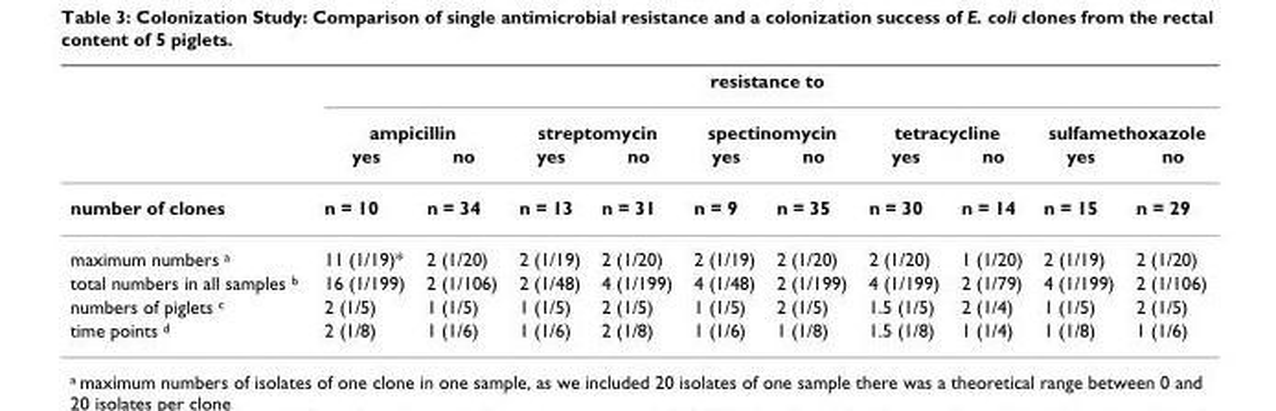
<table><thead><tr><td rowspan="3"></td><td colspan="10">resistance to</td></tr><tr><td colspan="2">ampicillin</td><td colspan="2">streptomycin</td><td colspan="2">spectinomycin</td><td colspan="2">tetracycline</td><td colspan="2">sulfamethoxazole</td></tr><tr><td>yes</td><td>no</td><td>yes</td><td>no</td><td>yes</td><td>no</td><td>yes</td><td>no</td><td>yes</td><td>no</td></tr></thead><tbody><tr><td>number of clones</td><td>n = 10</td><td>n = 34</td><td>n = 13</td><td>n = 31</td><td>n = 9</td><td>n = 35</td><td>n = 30</td><td>n = 14</td><td>n = 15</td><td>n = 29</td></tr><tr><td>maximum numbers <sup>a</sup></td><td>11 (1/19)*</td><td>2 (1/20)</td><td>2 (1/19)</td><td>2 (1/20)</td><td>2 (1/19)</td><td>2 (1/20)</td><td>2 (1/20)</td><td>1 (1/20)</td><td>2 (1/19)</td><td>2 (1/20)</td></tr><tr><td>total numbers in all samples <sup>b</sup></td><td>16 (1/199)</td><td>2 (1/106)</td><td>2 (1/48)</td><td>4 (1/199)</td><td>4 (1/48)</td><td>2 (1/199)</td><td>4 (1/199)</td><td>2 (1/79)</td><td>4 (1/199)</td><td>2 (1/106)</td></tr><tr><td>numbers of piglets <sup>c</sup></td><td>2 (1/5)</td><td>1 (1/5)</td><td>1 (1/5)</td><td>2 (1/5)</td><td>1 (1/5)</td><td>2 (1/5)</td><td>1.5 (1/5)</td><td>2 (1/4)</td><td>1 (1/5)</td><td>2 (1/5)</td></tr><tr><td>time points <sup>d</sup></td><td>2 (1/8)</td><td>1 (1/6)</td><td>1 (1/6)</td><td>2 (1/8)</td><td>1 (1/6)</td><td>1 (1/8)</td><td>1.5 (1/8)</td><td>1 (1/4)</td><td>1 (1/8)</td><td>1 (1/6)</td></tr></tbody></table>